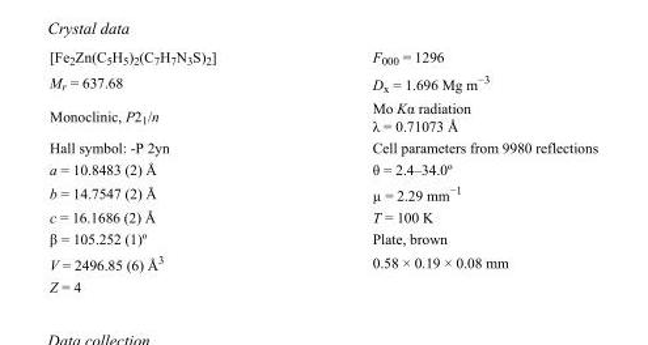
<table><tbody><tr><td>[Fe<sub>2</sub>Zn(C<sub>5</sub>H<sub>5</sub>)<sub>2</sub>(C<sub>7</sub>H<sub>7</sub>N<sub>3</sub>S)<sub>2</sub>]</td><td>F000 = 1296</td></tr><tr><td>M<sub>r</sub> = 637.68</td><td>D<sub>x</sub> = 1.696 Mg m<sup>−3</sup></td></tr><tr><td>Monoclinic, P2<sub>1</sub>/n</td><td>Mo Kα radiation λ = 0.71073 Å</td></tr><tr><td>Hall symbol: -P 2yn</td><td>Cell parameters from 9980 reflections</td></tr><tr><td>a = 10.8483 (2) Å</td><td>θ = 2.4–34.0º</td></tr><tr><td>b = 14.7547 (2) Å</td><td>µ = 2.29 mm<sup>−1</sup></td></tr><tr><td>c = 16.1686 (2) Å</td><td>T = 100 K</td></tr><tr><td>β = 105.252 (1)º</td><td>Plate, brown</td></tr><tr><td>V = 2496.85 (6) Å<sup>3</sup></td><td>0.58 × 0.19 × 0.08 mm</td></tr><tr><td>Z = 4</td><td></td></tr></tbody></table>